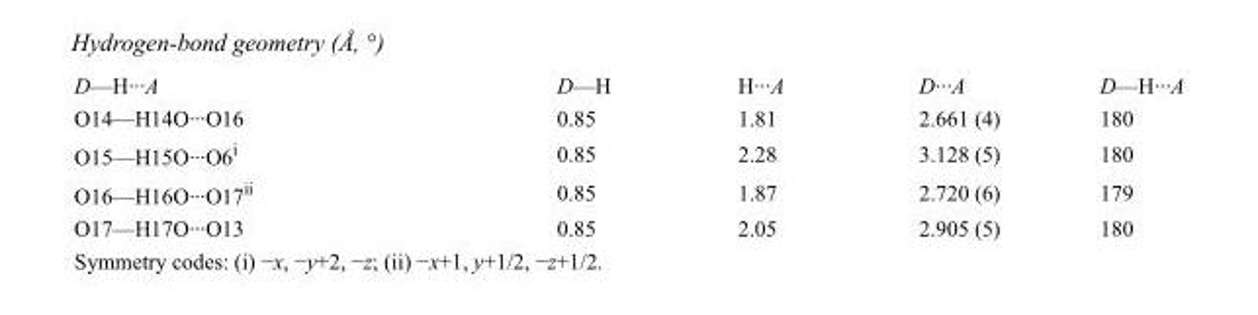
<table><tbody><tr><td>D—H···A</td><td>D—H</td><td>H···A</td><td>D···A</td><td>D—H···A</td></tr><tr><td>O14—H14O···O16</td><td>0.85</td><td>1.81</td><td>2.661 (4)</td><td>180</td></tr><tr><td>O15—H15O···O6<sup>i</sup></td><td>0.85</td><td>2.28</td><td>3.128 (5)</td><td>180</td></tr><tr><td>O16—H16O···O17<sup>ii</sup></td><td>0.85</td><td>1.87</td><td>2.720 (6)</td><td>179</td></tr><tr><td>O17—H17O···O13</td><td>0.85</td><td>2.05</td><td>2.905 (5)</td><td>180</td></tr></tbody></table>